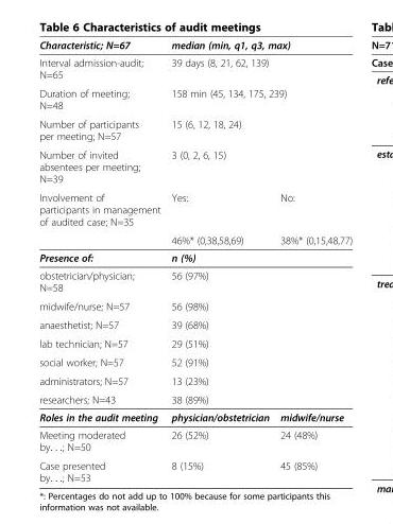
<table><thead><tr><td>Characteristic; N=67</td><td colspan="2">median (min, q1, q3, max)</td></tr></thead><tbody><tr><td>Interval admission-audit; N=65</td><td colspan="2">39 days (8, 21, 62, 139)</td></tr><tr><td>Duration of meeting; N=48</td><td colspan="2">158 min (45, 134, 175, 239)</td></tr><tr><td>Number of participants per meeting; N=57</td><td colspan="2">15 (6, 12, 18, 24)</td></tr><tr><td>Number of invited absentees per meeting; N=39</td><td colspan="2">3 (0, 2, 6, 15)</td></tr><tr><td rowspan="2">Involvement of participants in management of audited case; N=35</td><td>Yes:</td><td>No:</td></tr><tr><td>46%* (0,38,58,69)</td><td>38%* (0,15,48,77)</td></tr><tr><td>Presence of:</td><td colspan="2">n (%)</td></tr><tr><td>obstetrician/physician; N=58</td><td colspan="2">56 (97%)</td></tr><tr><td>midwife/nurse; N=57</td><td colspan="2">56 (98%)</td></tr><tr><td>anaesthetist; N=57</td><td colspan="2">39 (68%)</td></tr><tr><td>lab technician; N=57</td><td colspan="2">29 (51%)</td></tr><tr><td>social worker; N=57</td><td colspan="2">52 (91%)</td></tr><tr><td>administrators; N=57</td><td colspan="2">13 (23%)</td></tr><tr><td>researchers; N=43</td><td colspan="2">38 (89%)</td></tr><tr><td>Roles in the audit meeting</td><td>physician/obstetrician</td><td>midwife/nurse</td></tr><tr><td>Meeting moderated by. . .; N=50</td><td>26 (52%)</td><td>24 (48%)</td></tr><tr><td>Case presented by. . .; N=53</td><td>8 (15%)</td><td>45 (85%)</td></tr></tbody></table>